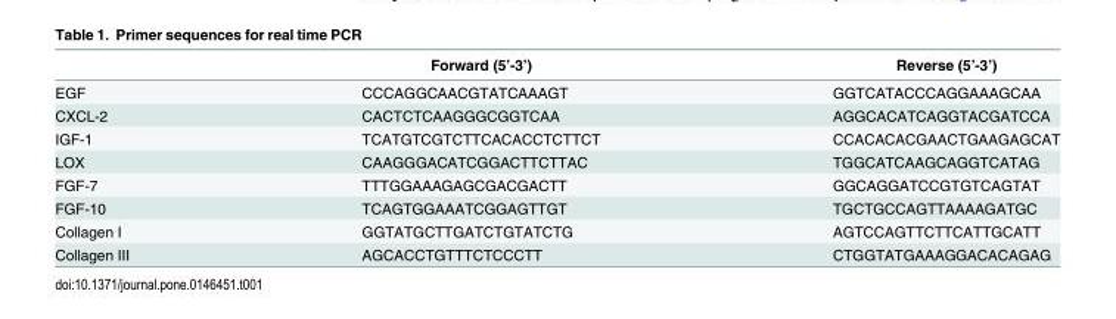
<table><thead><tr><td></td><td>Forward (5’-3’)</td><td>Reverse (5’-3’)</td></tr></thead><tbody><tr><td>EGF</td><td>CCCAGGCAACGTATCAAAGT</td><td>GGTCATACCCAGGAAAGCAA</td></tr><tr><td>CXCL-2</td><td>CACTCTCAAGGGCGGTCAA</td><td>AGGCACATCAGGTACGATCCA</td></tr><tr><td>IGF-1</td><td>TCATGTCGTCTTCACACCTCTTCT</td><td>CCACACACGAACTGAAGAGCAT</td></tr><tr><td>LOX</td><td>CAAGGGACATCGGACTTCTTAC</td><td>TGGCATCAAGCAGGTCATAG</td></tr><tr><td>FGF-7</td><td>TTTGGAAAGAGCGACGACTT</td><td>GGCAGGATCCGTGTCAGTAT</td></tr><tr><td>FGF-10</td><td>TCAGTGGAAATCGGAGTTGT</td><td>TGCTGCCAGTTAAAAGATGC</td></tr><tr><td>Collagen I</td><td>GGTATGCTTGATCTGTATCTG</td><td>AGTCCAGTTCTTCATTGCATT</td></tr><tr><td>Collagen III</td><td>AGCACCTGTTTCTCCCTT</td><td>CTGGTATGAAAGGACACAGAG</td></tr></tbody></table>